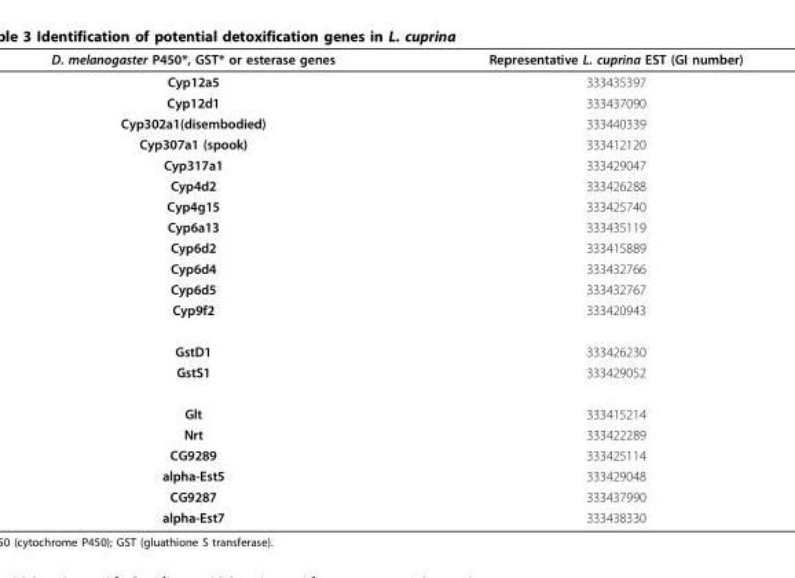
<table><thead><tr><td>D. melanogaster P450*, GST* or esterase genes</td><td>Representative L. cuprina EST (GI number)</td></tr></thead><tbody><tr><td>Cyp12a5</td><td>333435397</td></tr><tr><td>Cyp12d1</td><td>333437090</td></tr><tr><td>Cyp302a1(disembodied)</td><td>333440339</td></tr><tr><td>Cyp307a1 (spook)</td><td>333412120</td></tr><tr><td>Cyp317a1</td><td>333429047</td></tr><tr><td>Cyp4d2</td><td>333426288</td></tr><tr><td>Cyp4g15</td><td>333425740</td></tr><tr><td>Cyp6a13</td><td>333435119</td></tr><tr><td>Cyp6d2</td><td>333415889</td></tr><tr><td>Cyp6d4</td><td>333432766</td></tr><tr><td>Cyp6d5</td><td>333432767</td></tr><tr><td>Cyp9f2</td><td>333420943</td></tr><tr><td>GstD1</td><td>333426230</td></tr><tr><td>GstS1</td><td>333429052</td></tr><tr><td>Glt</td><td>333415214</td></tr><tr><td>Nrt</td><td>333422289</td></tr><tr><td>CG9289</td><td>333425114</td></tr><tr><td>alpha-Est5</td><td>333429048</td></tr><tr><td>CG9287</td><td>333437990</td></tr><tr><td>alpha-Est7</td><td>333438330</td></tr></tbody></table>